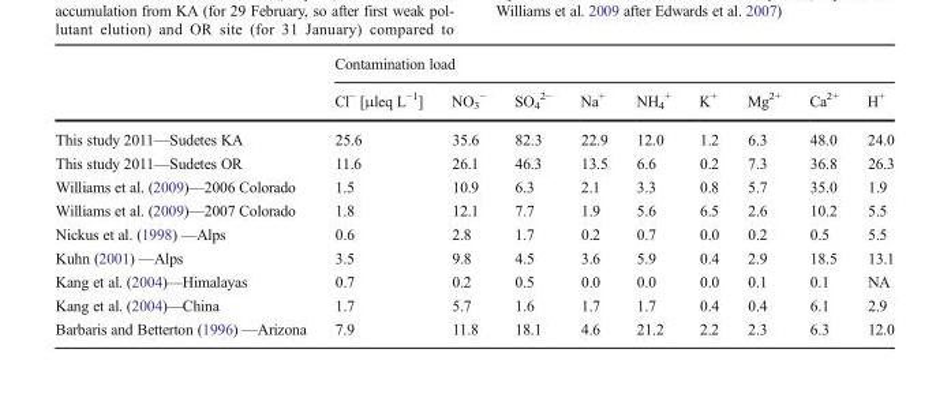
<table><thead><tr><td rowspan="2"></td><td colspan="9">Contamination load</td></tr><tr><td>Cl<sup>−</sup> [μleq L<sup>−1</sup>]</td><td>NO<sub>3</sub> <sup>−</sup></td><td>SO<sub>4</sub> <sup>2−</sup></td><td>Na<sup>+</sup></td><td>NH<sub>4</sub> <sup>+</sup></td><td>K<sup>+</sup></td><td>Mg<sup>2+</sup></td><td>Ca<sup>2+</sup></td><td>H<sup>+</sup></td></tr></thead><tbody><tr><td>This study 2011—Sudetes KA</td><td>25.6</td><td>35.6</td><td>82.3</td><td>22.9</td><td>12.0</td><td>1.2</td><td>6.3</td><td>48.0</td><td>24.0</td></tr><tr><td>This study 2011—Sudetes OR</td><td>11.6</td><td>26.1</td><td>46.3</td><td>13.5</td><td>6.6</td><td>0.2</td><td>7.3</td><td>36.8</td><td>26.3</td></tr><tr><td>Williams et al. (2009)—2006 Colorado</td><td>1.5</td><td>10.9</td><td>6.3</td><td>2.1</td><td>3.3</td><td>0.8</td><td>5.7</td><td>35.0</td><td>1.9</td></tr><tr><td>Williams et al. (2009)—2007 Colorado</td><td>1.8</td><td>12.1</td><td>7.7</td><td>1.9</td><td>5.6</td><td>6.5</td><td>2.6</td><td>10.2</td><td>5.5</td></tr><tr><td>Nickus et al. (1998) —Alps</td><td>0.6</td><td>2.8</td><td>1.7</td><td>0.2</td><td>0.7</td><td>0.0</td><td>0.2</td><td>0.5</td><td>5.5</td></tr><tr><td>Kuhn (2001) —Alps</td><td>3.5</td><td>9.8</td><td>4.5</td><td>3.6</td><td>5.9</td><td>0.4</td><td>2.9</td><td>18.5</td><td>13.1</td></tr><tr><td>Kang et al. (2004)—Himalayas</td><td>0.7</td><td>0.2</td><td>0.5</td><td>0.0</td><td>0.0</td><td>0.0</td><td>0.1</td><td>0.1</td><td>NA</td></tr><tr><td>Kang et al. (2004)—China</td><td>1.7</td><td>5.7</td><td>1.6</td><td>1.7</td><td>1.7</td><td>0.4</td><td>0.4</td><td>6.1</td><td>2.9</td></tr><tr><td>Barbaris and Betterton (1996) —Arizona</td><td>7.9</td><td>11.8</td><td>18.1</td><td>4.6</td><td>21.2</td><td>2.2</td><td>2.3</td><td>6.3</td><td>12.0</td></tr></tbody></table>